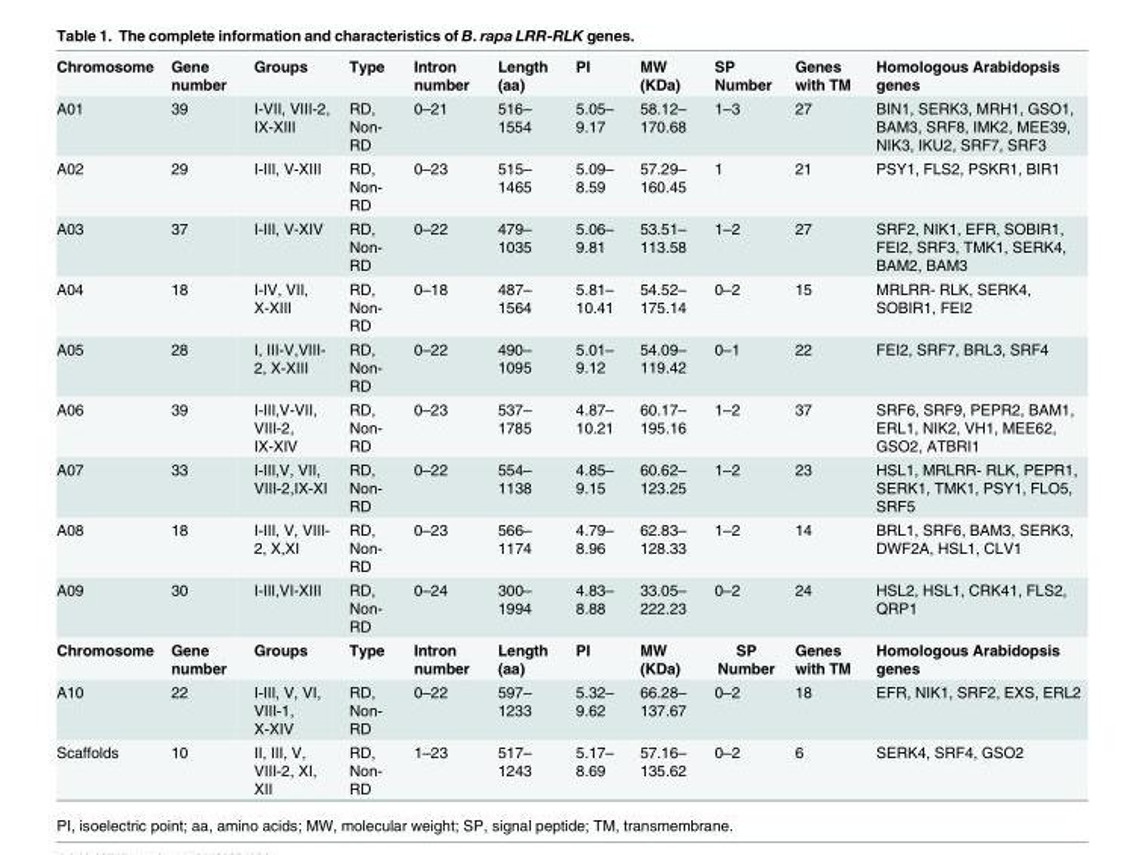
<table><tbody><tr><td>Chromosome</td><td>Gene number</td><td>Groups</td><td>Type</td><td>Intron number</td><td>Length (aa)</td><td>PI</td><td>MW (KDa)</td><td>SP Number</td><td>Genes with TM</td><td>Homologous Arabidopsis genes</td></tr><tr><td>A01</td><td>39</td><td>I-VII, VIII-2, IX-XIII</td><td>RD, Non- RD</td><td>0–21</td><td>516– 1554</td><td>5.05– 9.17</td><td>58.12– 170.68</td><td>1–3</td><td>27</td><td>BIN1, SERK3, MRH1, GSO1, BAM3, SRF8, IMK2, MEE39, NIK3, IKU2, SRF7, SRF3</td></tr><tr><td>A02</td><td>29</td><td>I-III, V-XIII</td><td>RD, Non- RD</td><td>0–23</td><td>515– 1465</td><td>5.09– 8.59</td><td>57.29– 160.45</td><td>1</td><td>21</td><td>PSY1, FLS2, PSKR1, BIR1</td></tr><tr><td>A03</td><td>37</td><td>I-III, V-XIV</td><td>RD, Non- RD</td><td>0–22</td><td>479– 1035</td><td>5.06– 9.81</td><td>53.51– 113.58</td><td>1–2</td><td>27</td><td>SRF2, NIK1, EFR, SOBIR1, FEI2, SRF3, TMK1, SERK4, BAM2, BAM3</td></tr><tr><td>A04</td><td>18</td><td>I-IV, VII, X-XIII</td><td>RD, Non- RD</td><td>0–18</td><td>487– 1564</td><td>5.81– 10.41</td><td>54.52– 175.14</td><td>0–2</td><td>15</td><td>MRLRR- RLK, SERK4, SOBIR1, FEI2</td></tr><tr><td>A05</td><td>28</td><td>I, III-V,VIII- 2, X-XIII</td><td>RD, Non- RD</td><td>0–22</td><td>490– 1095</td><td>5.01– 9.12</td><td>54.09– 119.42</td><td>0–1</td><td>22</td><td>FEI2, SRF7, BRL3, SRF4</td></tr><tr><td>A06</td><td>39</td><td>I-III,V-VII, VIII-2, IX-XIV</td><td>RD, Non- RD</td><td>0–23</td><td>537– 1785</td><td>4.87– 10.21</td><td>60.17– 195.16</td><td>1–2</td><td>37</td><td>SRF6, SRF9, PEPR2, BAM1, ERL1, NIK2, VH1, MEE62, GSO2, ATBRI1</td></tr><tr><td>A07</td><td>33</td><td>I-III,V, VII, VIII-2,IX-XI</td><td>RD, Non- RD</td><td>0–22</td><td>554– 1138</td><td>4.85– 9.15</td><td>60.62– 123.25</td><td>1–2</td><td>23</td><td>HSL1, MRLRR- RLK, PEPR1, SERK1, TMK1, PSY1, FLO5, SRF5</td></tr><tr><td>A08</td><td>18</td><td>I-III, V, VIII- 2, X,XI</td><td>RD, Non- RD</td><td>0–23</td><td>566– 1174</td><td>4.79– 8.96</td><td>62.83– 128.33</td><td>1–2</td><td>14</td><td>BRL1, SRF6, BAM3, SERK3, DWF2A, HSL1, CLV1</td></tr><tr><td>A09</td><td>30</td><td>I-III,VI-XIII</td><td>RD, Non- RD</td><td>0–24</td><td>300– 1994</td><td>4.83– 8.88</td><td>33.05– 222.23</td><td>0–2</td><td>24</td><td>HSL2, HSL1, CRK41, FLS2, QRP1</td></tr><tr><td>Chromosome</td><td>Gene number</td><td>Groups</td><td>Type</td><td>Intron number</td><td>Length (aa)</td><td>PI</td><td>MW (KDa)</td><td>SP Number</td><td>Genes with TM</td><td>Homologous Arabidopsis genes</td></tr><tr><td>A10</td><td>22</td><td>I-III, V, VI, VIII-1, X-XIV</td><td>RD, Non- RD</td><td>0–22</td><td>597– 1233</td><td>5.32– 9.62</td><td>66.28– 137.67</td><td>0–2</td><td>18</td><td>EFR, NIK1, SRF2, EXS, ERL2</td></tr><tr><td>Scaffolds</td><td>10</td><td>II, III, V, VIII-2, XI, XII</td><td>RD, Non- RD</td><td>1–23</td><td>517– 1243</td><td>5.17– 8.69</td><td>57.16– 135.62</td><td>0–2</td><td>6</td><td>SERK4, SRF4, GSO2</td></tr></tbody></table>